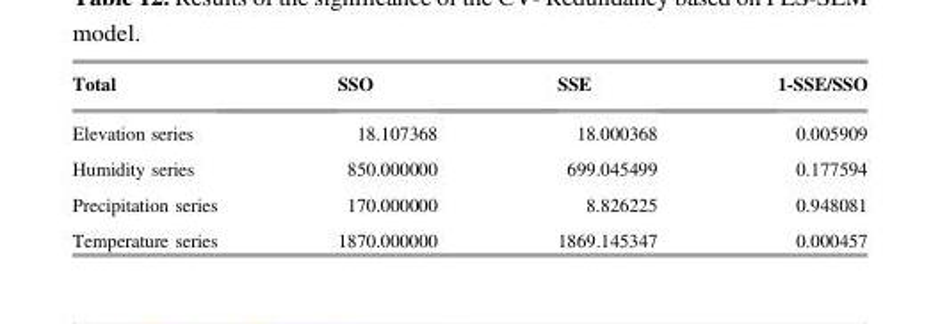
<table><thead><tr><td>Total</td><td>SSO</td><td>SSE</td><td>1-SSE/SSO</td></tr></thead><tbody><tr><td>Elevation series</td><td>18.107368</td><td>18.000368</td><td>0.005909</td></tr><tr><td>Humidity series</td><td>850.000000</td><td>699.045499</td><td>0.177594</td></tr><tr><td>Precipitation series</td><td>170.000000</td><td>8.826225</td><td>0.948081</td></tr><tr><td>Temperature series</td><td>1870.000000</td><td>1869.145347</td><td>0.000457</td></tr></tbody></table>